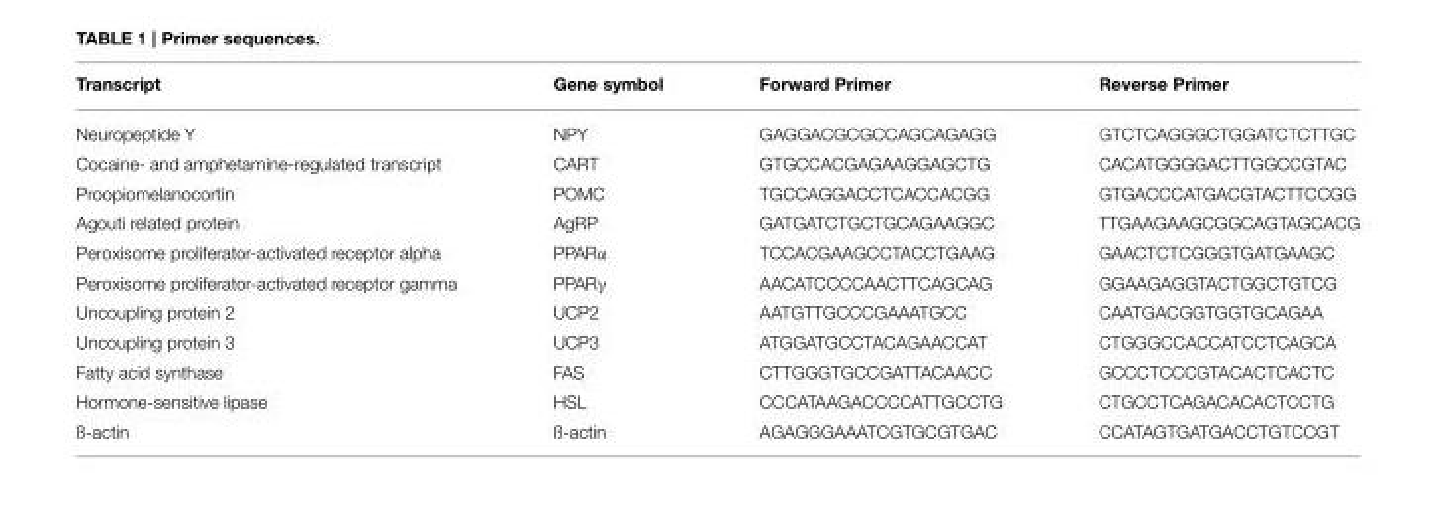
<table><thead><tr><td>Transcript</td><td>Gene symbol</td><td>Forward Primer</td><td>Reverse Primer</td></tr></thead><tbody><tr><td>Neuropeptide Y</td><td>NPY</td><td>GAGGACGCGCCAGCAGAGG</td><td>GTCTCAGGGCTGGATCTCTTGC</td></tr><tr><td>Cocaine- and amphetamine-regulated transcript</td><td>CART</td><td>GTGCCACGAGAAGGAGCTG</td><td>CACATGGGGACTTGGCCGTAC</td></tr><tr><td>Proopiomelanocortin</td><td>POMC</td><td>TGCCAGGACCTCACCACGG</td><td>GTGACCCATGACGTACTTCCGG</td></tr><tr><td>Agouti related protein</td><td>AgRP</td><td>GATGATCTGCTGCAGAAGGC</td><td>TTGAAGAAGCGGCAGTAGCACG</td></tr><tr><td>Peroxisome proliferator-activated receptor alpha</td><td>PPARα</td><td>TCCACGAAGCCTACCTGAAG</td><td>GAACTCTCGGGTGATGAAGC</td></tr><tr><td>Peroxisome proliferator-activated receptor gamma</td><td>PPARγ</td><td>AACATCCCCAACTTCAGCAG</td><td>GGAAGAGGTACTGGCTGTCG</td></tr><tr><td>Uncoupling protein 2</td><td>UCP2</td><td>AATGTTGCCCGAAATGCC</td><td>CAATGACGGTGGTGCAGAA</td></tr><tr><td>Uncoupling protein 3</td><td>UCP3</td><td>ATGGATGCCTACAGAACCAT</td><td>CTGGGCCACCATCCTCAGCA</td></tr><tr><td>Fatty acid synthase</td><td>FAS</td><td>CTTGGGTGCCGATTACAACC</td><td>GCCCTCCCGTACACTCACTC</td></tr><tr><td>Hormone-sensitive lipase</td><td>HSL</td><td>CCCATAAGACCCCATTGCCTG</td><td>CTGCCTCAGACACACTCCTG</td></tr><tr><td>ß-actin</td><td>ß-actin</td><td>AGAGGGAAATCGTGCGTGAC</td><td>CCATAGTGATGACCTGTCCGT</td></tr></tbody></table>